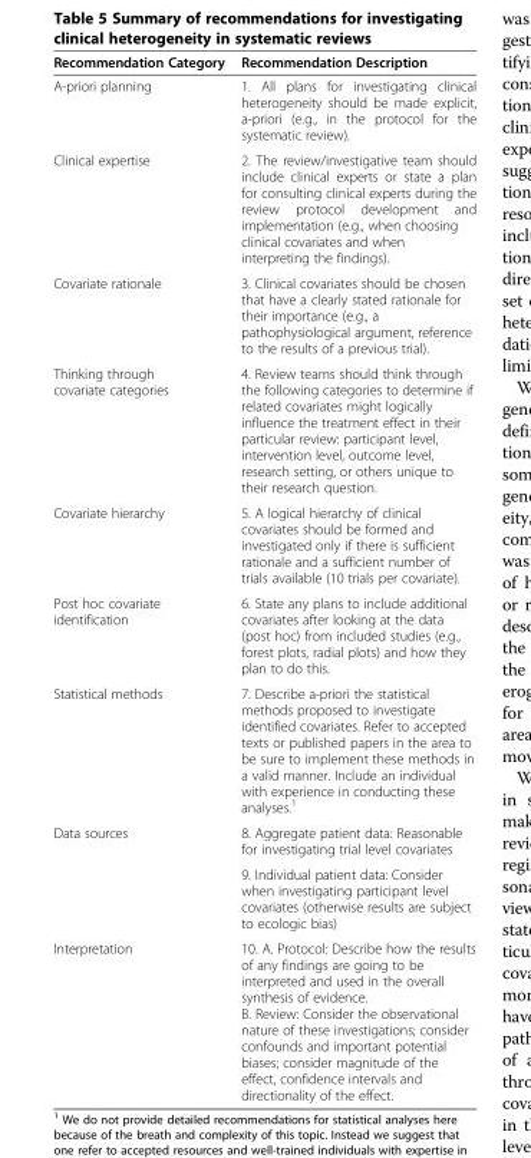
<table><thead><tr><td>Recommendation Category</td><td>Recommendation Description</td></tr></thead><tbody><tr><td>A-priori planning</td><td>1. All plans for investigating clinical heterogeneity should be made explicit, a-priori (e.g., in the protocol for the systematic review).</td></tr><tr><td>Clinical expertise</td><td>2. The review/investigative team should include clinical experts or state a plan for consulting clinical experts during the review protocol development and implementation (e.g., when choosing clinical covariates and when interpreting the findings).</td></tr><tr><td>Covariate rationale</td><td>3. Clinical covariates should be chosen that have a clearly stated rationale for their importance (e.g., a pathophysiological argument, reference to the results of a previous trial).</td></tr><tr><td>Thinking through covariate categories</td><td>4. Review teams should think through the following categories to determine if related covariates might logically influence the treatment effect in their particular review: participant level, intervention level, outcome level, research setting, or others unique to their research question.</td></tr><tr><td>Covariate hierarchy</td><td>5. A logical hierarchy of clinical covariates should be formed and investigated only if there is sufficient rationale and a sufficient number of trials available (10 trials per covariate).</td></tr><tr><td>Post hoc covariate identification</td><td>6. State any plans to include additional covariates after looking at the data (post hoc) from included studies (e.g., forest plots, radial plots) and how they plan to do this.</td></tr><tr><td>Statistical methods</td><td>7. Describe a-priori the statistical methods proposed to investigate identified covariates. Refer to accepted texts or published papers in the area to be sure to implement these methods in a valid manner. Include an individual with experience in conducting these analyses.<sup>1</sup></td></tr><tr><td rowspan="2">Data sources</td><td>8. Aggregate patient data: Reasonable for investigating trial level covariates</td></tr><tr><td>9. Individual patient data: Consider when investigating participant level covariates (otherwise results are subject to ecologic bias)</td></tr><tr><td>Interpretation</td><td>10. A. Protocol: Describe how the results of any findings are going to be interpreted and used in the overall synthesis of evidence. B. Review: Consider the observational nature of these investigations; consider confounds and important potential biases; consider magnitude of the effect, confidence intervals and directionality of the effect.</td></tr></tbody></table>